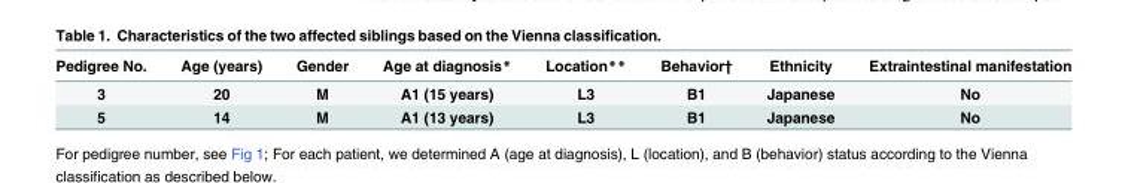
<table><thead><tr><td>Pedigree No.</td><td>Age (years)</td><td>Gender</td><td>Age at diagnosis*</td><td>Location**</td><td>Behavior†</td><td>Ethnicity</td><td>Extraintestinal manifestation</td></tr></thead><tbody><tr><td>3</td><td>20</td><td>M</td><td>A1 (15 years)</td><td>L3</td><td>B1</td><td>Japanese</td><td>No</td></tr><tr><td>5</td><td>14</td><td>M</td><td>A1 (13 years)</td><td>L3</td><td>B1</td><td>Japanese</td><td>No</td></tr></tbody></table>